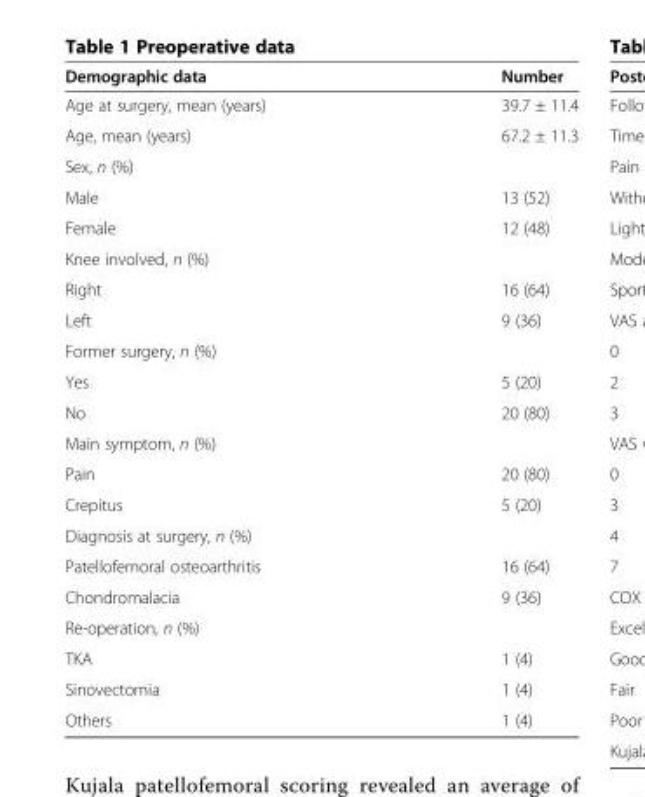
<table><thead><tr><td>Demographic data</td><td>Number</td></tr></thead><tbody><tr><td>Age at surgery, mean (years)</td><td>39.7 ± 11.4</td></tr><tr><td>Age, mean (years)</td><td>67.2 ± 11.3</td></tr><tr><td colspan="2">Sex, n (%)</td></tr><tr><td>Male</td><td>13 (52)</td></tr><tr><td>Female</td><td>12 (48)</td></tr><tr><td colspan="2">Knee involved, n (%)</td></tr><tr><td>Right</td><td>16 (64)</td></tr><tr><td>Left</td><td>9 (36)</td></tr><tr><td colspan="2">Former surgery, n (%)</td></tr><tr><td>Yes</td><td>5 (20)</td></tr><tr><td>No</td><td>20 (80)</td></tr><tr><td colspan="2">Main symptom, n (%)</td></tr><tr><td>Pain</td><td>20 (80)</td></tr><tr><td>Crepitus</td><td>5 (20)</td></tr><tr><td colspan="2">Diagnosis at surgery, n (%)</td></tr><tr><td>Patellofemoral osteoarthritis</td><td>16 (64)</td></tr><tr><td>Chondromalacia</td><td>9 (36)</td></tr><tr><td colspan="2">Re-operation, n (%)</td></tr><tr><td>TKA</td><td>1 (4)</td></tr><tr><td>Sinovectomia</td><td>1 (4)</td></tr><tr><td>Others</td><td>1 (4)</td></tr></tbody></table>